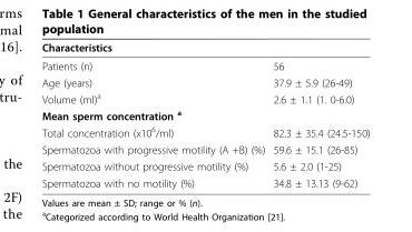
<table><thead><tr><td>Characteristics</td><td></td></tr></thead><tbody><tr><td>Patients (n)</td><td>56</td></tr><tr><td>Age (years)</td><td>37.9 ± 5.9 (26-49)</td></tr><tr><td>Volume (ml)<sup>a</sup></td><td>2.6 ± 1.1 (1. 0-6.0)</td></tr><tr><td colspan="2">Mean sperm concentration <sup>a</sup></td></tr><tr><td>Total concentration (x10<sup>6</sup>/ml)</td><td>82.3 ± 35.4 (24.5-150)</td></tr><tr><td>Spermatozoa with progressive motility (A +B) (%)</td><td>59.6 ± 15.1 (26-85)</td></tr><tr><td>Spermatozoa without progressive motility (%)</td><td>5.6 ± 2.0 (1-25)</td></tr><tr><td>Spermatozoa with no motility (%)</td><td>34.8 ± 13.13 (9-62)</td></tr></tbody></table>